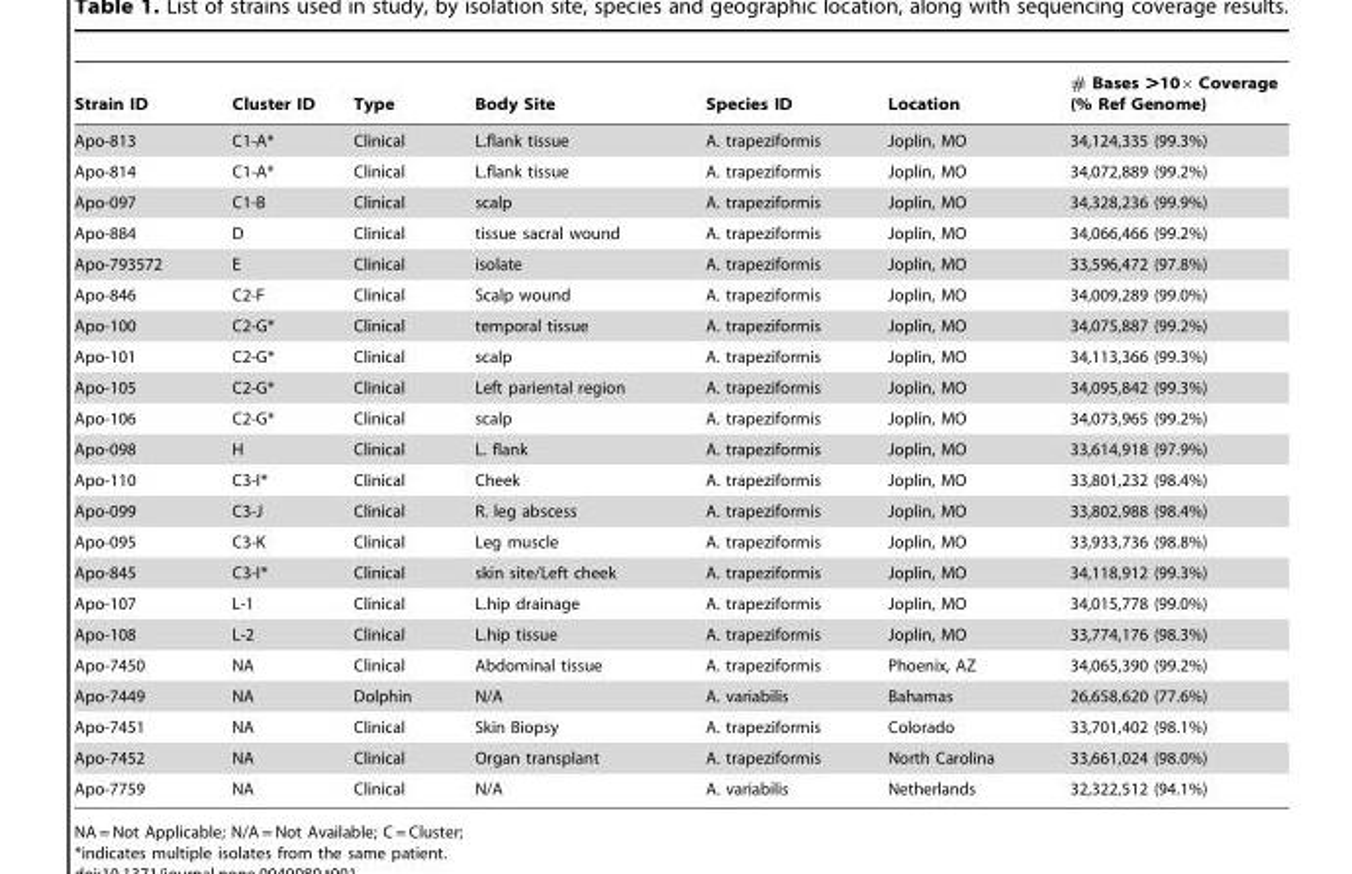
<table><thead><tr><td>Strain ID</td><td>Cluster ID</td><td>Type</td><td>Body Site</td><td>Species ID</td><td>Location</td><td># Bases &gt;10× Coverage (% Ref Genome)</td></tr></thead><tbody><tr><td>Apo-813</td><td>C1-A*</td><td>Clinical</td><td>L.flank tissue</td><td>A. trapeziformis</td><td>Joplin, MO</td><td>34,124,335 (99.3%)</td></tr><tr><td>Apo-814</td><td>C1-A*</td><td>Clinical</td><td>L.flank tissue</td><td>A. trapeziformis</td><td>Joplin, MO</td><td>34,072,889 (99.2%)</td></tr><tr><td>Apo-097</td><td>C1-B</td><td>Clinical</td><td>scalp</td><td>A. trapeziformis</td><td>Joplin, MO</td><td>34,328,236 (99.9%)</td></tr><tr><td>Apo-884</td><td>D</td><td>Clinical</td><td>tissue sacral wound</td><td>A. trapeziformis</td><td>Joplin, MO</td><td>34,066,466 (99.2%)</td></tr><tr><td>Apo-793572</td><td>E</td><td>Clinical</td><td>isolate</td><td>A. trapeziformis</td><td>Joplin, MO</td><td>33,596,472 (97.8%)</td></tr><tr><td>Apo-846</td><td>C2-F</td><td>Clinical</td><td>Scalp wound</td><td>A. trapeziformis</td><td>Joplin, MO</td><td>34,009,289 (99.0%)</td></tr><tr><td>Apo-100</td><td>C2-G*</td><td>Clinical</td><td>temporal tissue</td><td>A. trapeziformis</td><td>Joplin, MO</td><td>34,075,887 (99.2%)</td></tr><tr><td>Apo-101</td><td>C2-G*</td><td>Clinical</td><td>scalp</td><td>A. trapeziformis</td><td>Joplin, MO</td><td>34,113,366 (99.3%)</td></tr><tr><td>Apo-105</td><td>C2-G*</td><td>Clinical</td><td>Left pariental region</td><td>A. trapeziformis</td><td>Joplin, MO</td><td>34,095,842 (99.3%)</td></tr><tr><td>Apo-106</td><td>C2-G*</td><td>Clinical</td><td>scalp</td><td>A. trapeziformis</td><td>Joplin, MO</td><td>34,073,965 (99.2%)</td></tr><tr><td>Apo-098</td><td>H</td><td>Clinical</td><td>L. flank</td><td>A. trapeziformis</td><td>Joplin, MO</td><td>33,614,918 (97.9%)</td></tr><tr><td>Apo-110</td><td>C3-I*</td><td>Clinical</td><td>Cheek</td><td>A. trapeziformis</td><td>Joplin, MO</td><td>33,801,232 (98.4%)</td></tr><tr><td>Apo-099</td><td>C3-J</td><td>Clinical</td><td>R. leg abscess</td><td>A. trapeziformis</td><td>Joplin, MO</td><td>33,802,988 (98.4%)</td></tr><tr><td>Apo-095</td><td>C3-K</td><td>Clinical</td><td>Leg muscle</td><td>A. trapeziformis</td><td>Joplin, MO</td><td>33,933,736 (98.8%)</td></tr><tr><td>Apo-845</td><td>C3-I*</td><td>Clinical</td><td>skin site/Left cheek</td><td>A. trapeziformis</td><td>Joplin, MO</td><td>34,118,912 (99.3%)</td></tr><tr><td>Apo-107</td><td>L-1</td><td>Clinical</td><td>L.hip drainage</td><td>A. trapeziformis</td><td>Joplin, MO</td><td>34,015,778 (99.0%)</td></tr><tr><td>Apo-108</td><td>L-2</td><td>Clinical</td><td>L.hip tissue</td><td>A. trapeziformis</td><td>Joplin, MO</td><td>33,774,176 (98.3%)</td></tr><tr><td>Apo-7450</td><td>NA</td><td>Clinical</td><td>Abdominal tissue</td><td>A. trapeziformis</td><td>Phoenix, AZ</td><td>34,065,390 (99.2%)</td></tr><tr><td>Apo-7449</td><td>NA</td><td>Dolphin</td><td>N/A</td><td>A. variabilis</td><td>Bahamas</td><td>26,658,620 (77.6%)</td></tr><tr><td>Apo-7451</td><td>NA</td><td>Clinical</td><td>Skin Biopsy</td><td>A. trapeziformis</td><td>Colorado</td><td>33,701,402 (98.1%)</td></tr><tr><td>Apo-7452</td><td>NA</td><td>Clinical</td><td>Organ transplant</td><td>A. trapeziformis</td><td>North Carolina</td><td>33,661,024 (98.0%)</td></tr><tr><td>Apo-7759</td><td>NA</td><td>Clinical</td><td>N/A</td><td>A. variabilis</td><td>Netherlands</td><td>32,322,512 (94.1%)</td></tr></tbody></table>